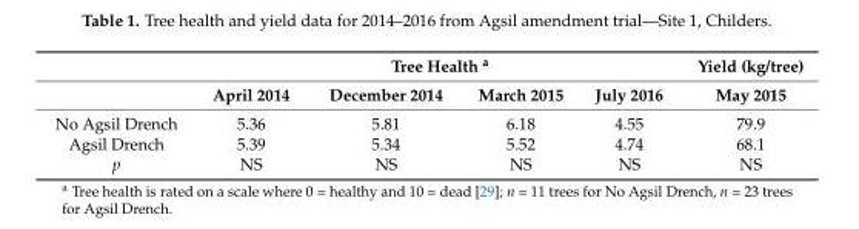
<table><thead><tr><td rowspan="2"></td><td colspan="4">Tree Health <sup>a</sup></td><td rowspan="2">Yield (kg/tree) May 2015</td></tr><tr><td>April 2014</td><td>December 2014</td><td>March 2015</td><td>July 2016</td></tr></thead><tbody><tr><td>No Agsil Drench</td><td>5.36</td><td>5.81</td><td>6.18</td><td>4.55</td><td>79.9</td></tr><tr><td>Agsil Drench</td><td>5.39</td><td>5.34</td><td>5.52</td><td>4.74</td><td>68.1</td></tr><tr><td>p</td><td>NS</td><td>NS</td><td>NS</td><td>NS</td><td>NS</td></tr></tbody></table>